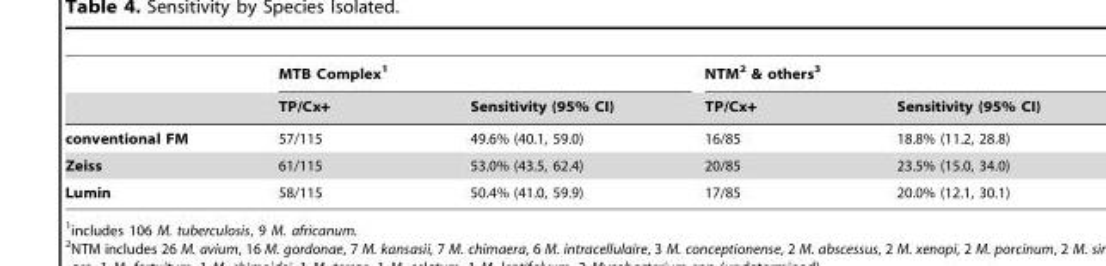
<table><thead><tr><td rowspan="2"></td><td colspan="2">MTB Complex<sup>1</sup></td><td colspan="2">NTM<sup>2</sup> &amp; others<sup>3</sup></td></tr><tr><td>TP/Cx+</td><td>Sensitivity (95% CI)</td><td>TP/Cx+</td><td>Sensitivity (95% CI)</td></tr></thead><tbody><tr><td>conventional FM</td><td>57/115</td><td>49.6% (40.1, 59.0)</td><td>16/85</td><td>18.8% (11.2, 28.8)</td></tr><tr><td>Zeiss</td><td>61/115</td><td>53.0% (43.5, 62.4)</td><td>20/85</td><td>23.5% (15.0, 34.0)</td></tr><tr><td>Lumin</td><td>58/115</td><td>50.4% (41.0, 59.9)</td><td>17/85</td><td>20.0% (12.1, 30.1)</td></tr></tbody></table>